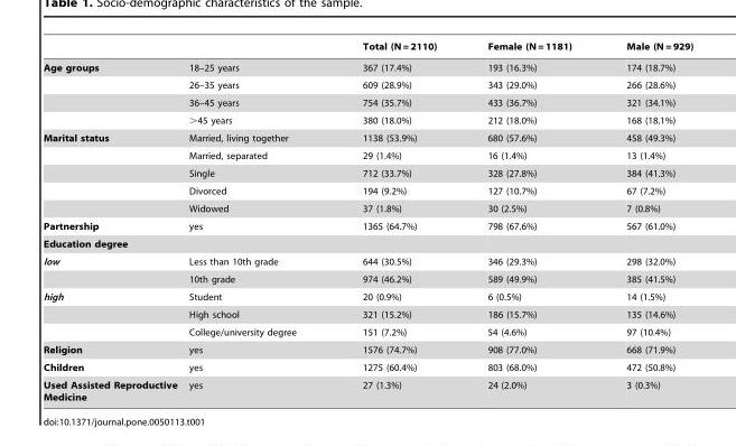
<table><thead><tr><td></td><td></td><td>Total (N = 2110)</td><td>Female (N = 1181)</td><td>Male (N = 929)</td></tr></thead><tbody><tr><td rowspan="4">Age groups</td><td>18–25 years</td><td>367 (17.4%)</td><td>193 (16.3%)</td><td>174 (18.7%)</td></tr><tr><td>26–35 years</td><td>609 (28.9%)</td><td>343 (29.0%)</td><td>266 (28.6%)</td></tr><tr><td>36–45 years</td><td>754 (35.7%)</td><td>433 (36.7%)</td><td>321 (34.1%)</td></tr><tr><td>&gt;45 years</td><td>380 (18.0%)</td><td>212 (18.0%)</td><td>168 (18.1%)</td></tr><tr><td rowspan="5">Marital status</td><td>Married, living together</td><td>1138 (53.9%)</td><td>680 (57.6%)</td><td>458 (49.3%)</td></tr><tr><td>Married, separated</td><td>29 (1.4%)</td><td>16 (1.4%)</td><td>13 (1.4%)</td></tr><tr><td>Single</td><td>712 (33.7%)</td><td>328 (27.8%)</td><td>384 (41.3%)</td></tr><tr><td>Divorced</td><td>194 (9.2%)</td><td>127 (10.7%)</td><td>67 (7.2%)</td></tr><tr><td>Widowed</td><td>37 (1.8%)</td><td>30 (2.5%)</td><td>7 (0.8%)</td></tr><tr><td>Partnership</td><td>yes</td><td>1365 (64.7%)</td><td>798 (67.6%)</td><td>567 (61.0%)</td></tr><tr><td colspan="5">Education degree</td></tr><tr><td rowspan="2">low</td><td>Less than 10th grade</td><td>644 (30.5%)</td><td>346 (29.3%)</td><td>298 (32.0%)</td></tr><tr><td>10th grade</td><td>974 (46.2%)</td><td>589 (49.9%)</td><td>385 (41.5%)</td></tr><tr><td rowspan="3">high</td><td>Student</td><td>20 (0.9%)</td><td>6 (0.5%)</td><td>14 (1.5%)</td></tr><tr><td>High school</td><td>321 (15.2%)</td><td>186 (15.7%)</td><td>135 (14.6%)</td></tr><tr><td>College/university degree</td><td>151 (7.2%)</td><td>54 (4.6%)</td><td>97 (10.4%)</td></tr><tr><td>Religion</td><td>yes</td><td>1576 (74.7%)</td><td>908 (77.0%)</td><td>668 (71.9%)</td></tr><tr><td>Children</td><td>yes</td><td>1275 (60.4%)</td><td>803 (68.0%)</td><td>472 (50.8%)</td></tr><tr><td>Used Assisted Reproductive Medicine</td><td>yes</td><td>27 (1.3%)</td><td>24 (2.0%)</td><td>3 (0.3%)</td></tr></tbody></table>